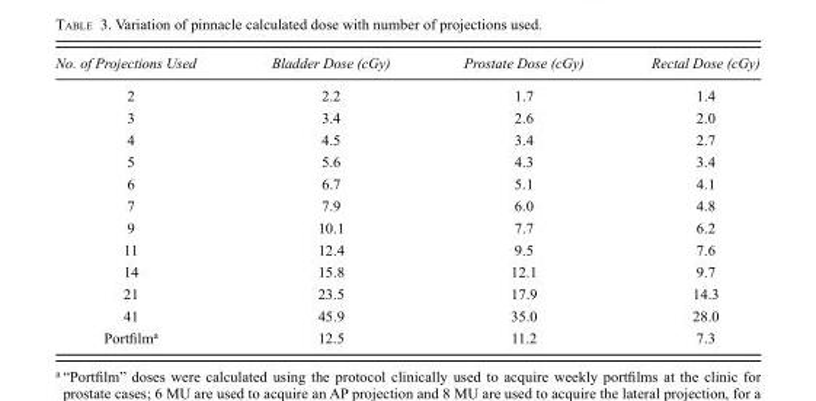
<table><thead><tr><td>No. of Projections Used</td><td>Bladder Dose (cGy)</td><td>Prostate Dose (cGy)</td><td>Rectal Dose (cGy)</td></tr></thead><tbody><tr><td>2</td><td>2.2</td><td>1.7</td><td>1.4</td></tr><tr><td>3</td><td>3.4</td><td>2.6</td><td>2.0</td></tr><tr><td>4</td><td>4.5</td><td>3.4</td><td>2.7</td></tr><tr><td>5</td><td>5.6</td><td>4.3</td><td>3.4</td></tr><tr><td>6</td><td>6.7</td><td>5.1</td><td>4.1</td></tr><tr><td>7</td><td>7.9</td><td>6.0</td><td>4.8</td></tr><tr><td>9</td><td>10.1</td><td>7.7</td><td>6.2</td></tr><tr><td>11</td><td>12.4</td><td>9.5</td><td>7.6</td></tr><tr><td>14</td><td>15.8</td><td>12.1</td><td>9.7</td></tr><tr><td>21</td><td>23.5</td><td>17.9</td><td>14.3</td></tr><tr><td>41</td><td>45.9</td><td>35.0</td><td>28.0</td></tr><tr><td>Portfilm<sup>a</sup></td><td>12.5</td><td>11.2</td><td>7.3</td></tr></tbody></table>